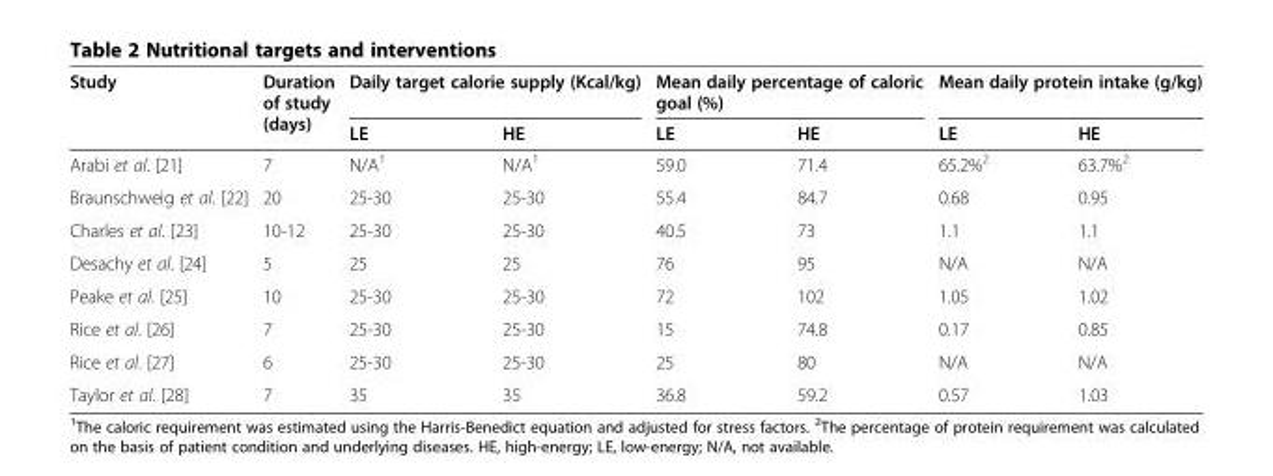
<table><thead><tr><td rowspan="2">Study</td><td rowspan="2">Duration of study (days)</td><td colspan="2">Daily target calorie supply (Kcal/kg)</td><td colspan="2">Mean daily percentage of caloric goal (%)</td><td colspan="2">Mean daily protein intake (g/kg)</td></tr><tr><td>LE</td><td>HE</td><td>LE</td><td>HE</td><td>LE</td><td>HE</td></tr></thead><tbody><tr><td>Arabi et al. [21]</td><td>7</td><td>N/A<sup>1</sup></td><td>N/A<sup>1</sup></td><td>59.0</td><td>71.4</td><td>65.2%<sup>2</sup></td><td>63.7%<sup>2</sup></td></tr><tr><td>Braunschweig et al. [22]</td><td>20</td><td>25-30</td><td>25-30</td><td>55.4</td><td>84.7</td><td>0.68</td><td>0.95</td></tr><tr><td>Charles et al. [23]</td><td>10-12</td><td>25-30</td><td>25-30</td><td>40.5</td><td>73</td><td>1.1</td><td>1.1</td></tr><tr><td>Desachy et al. [24]</td><td>5</td><td>25</td><td>25</td><td>76</td><td>95</td><td>N/A</td><td>N/A</td></tr><tr><td>Peake et al. [25]</td><td>10</td><td>25-30</td><td>25-30</td><td>72</td><td>102</td><td>1.05</td><td>1.02</td></tr><tr><td>Rice et al. [26]</td><td>7</td><td>25-30</td><td>25-30</td><td>15</td><td>74.8</td><td>0.17</td><td>0.85</td></tr><tr><td>Rice et al. [27]</td><td>6</td><td>25-30</td><td>25-30</td><td>25</td><td>80</td><td>N/A</td><td>N/A</td></tr><tr><td>Taylor et al. [28]</td><td>7</td><td>35</td><td>35</td><td>36.8</td><td>59.2</td><td>0.57</td><td>1.03</td></tr></tbody></table>